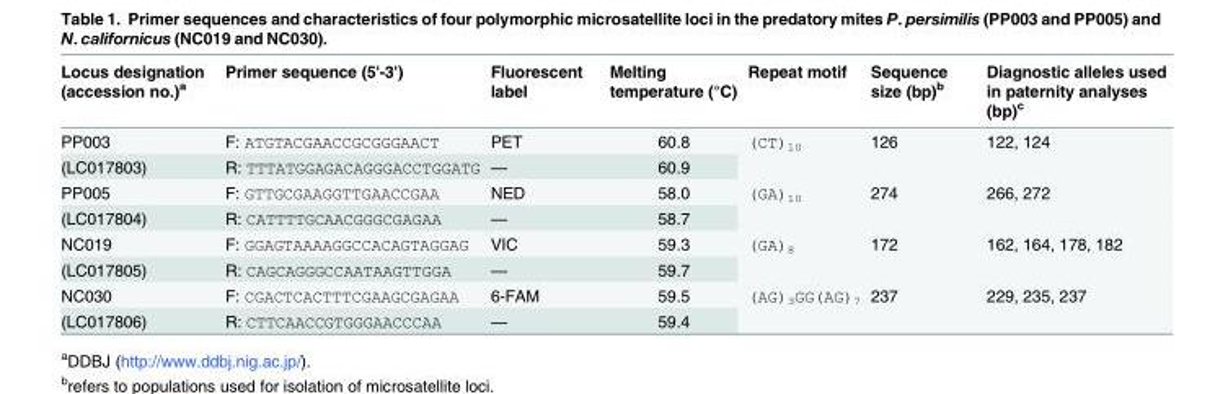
<table><thead><tr><td>Locus designation (accession no.)<sup>a</sup></td><td>Primer sequence (5&#x27;-3&#x27;)</td><td>Fluorescent label</td><td>Melting temperature (°C)</td><td>Repeat motif</td><td>Sequence size (bp)<sup>b</sup></td><td>Diagnostic alleles used in paternity analyses (bp)<sup>c</sup></td></tr></thead><tbody><tr><td>PP003</td><td>F: ATGTACGAACCGCGGGAACT</td><td>PET</td><td>60.8</td><td rowspan="2">(CT)<sub>10</sub></td><td rowspan="2">126</td><td rowspan="2">122, 124</td></tr><tr><td>(LC017803)</td><td>R: TTTATGGAGACAGGGACCTGGATG</td><td>—</td><td>60.9</td></tr><tr><td>PP005</td><td>F: GTTGCGAAGGTTGAACCGAA</td><td>NED</td><td>58.0</td><td rowspan="2">(GA)<sub>10</sub></td><td rowspan="2">274</td><td rowspan="2">266, 272</td></tr><tr><td>(LC017804)</td><td>R: CATTTTGCAACGGGCGAGAA</td><td>—</td><td>58.7</td></tr><tr><td>NC019</td><td>F: GGAGTAAAAGGCCACAGTAGGAG</td><td>VIC</td><td>59.3</td><td rowspan="2">(GA)<sub>8</sub></td><td rowspan="2">172</td><td rowspan="2">162, 164, 178, 182</td></tr><tr><td>(LC017805)</td><td>R: CAGCAGGGCCAATAAGTTGGA</td><td>—</td><td>59.7</td></tr><tr><td>NC030</td><td>F: CGACTCACTTTCGAAGCGAGAA</td><td>6-FAM</td><td>59.5</td><td rowspan="2">(AG)<sub>3</sub>GG(AG)<sub>7</sub></td><td rowspan="2">237</td><td rowspan="2">229, 235, 237</td></tr><tr><td>(LC017806)</td><td>R: CTTCAACCGTGGGAACCCAA</td><td>—</td><td>59.4</td></tr></tbody></table>